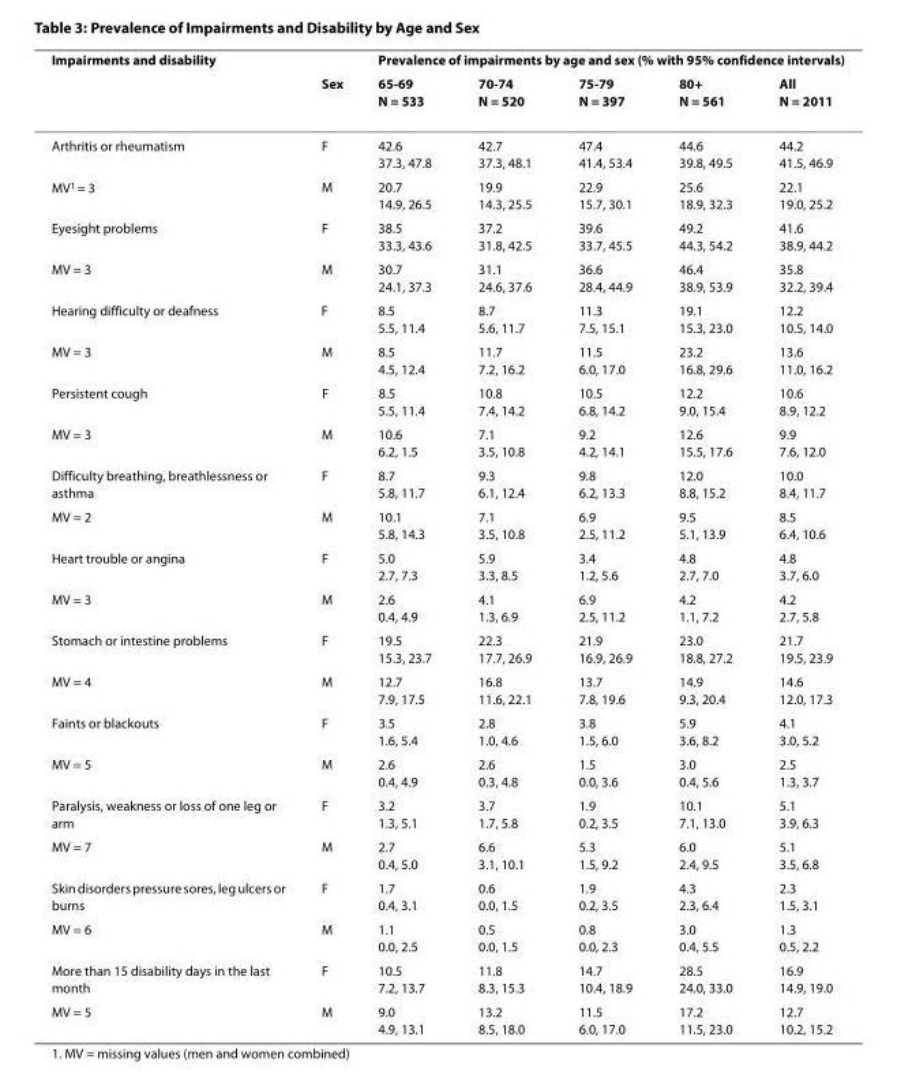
<table><thead><tr><td rowspan="2">Impairments and disability</td><td rowspan="2">Sex</td><td colspan="5">Prevalence of impairments by age and sex (% with 95% confidence intervals)</td></tr><tr><td>65-69 N = 533</td><td>70-74 N = 520</td><td>75-79 N = 397</td><td>80+ N = 561</td><td>All N = 2011</td></tr></thead><tbody><tr><td>Arthritis or rheumatism</td><td>F</td><td>42.6 37.3, 47.8</td><td>42.7 37.3, 48.1</td><td>47.4 41.4, 53.4</td><td>44.6 39.8, 49.5</td><td>44.2 41.5, 46.9</td></tr><tr><td>MV<sup>1</sup> = 3</td><td>M</td><td>20.7 14.9, 26.5</td><td>19.9 14.3, 25.5</td><td>22.9 15.7, 30.1</td><td>25.6 18.9, 32.3</td><td>22.1 19.0, 25.2</td></tr><tr><td>Eyesight problems</td><td>F</td><td>38.5 33.3, 43.6</td><td>37.2 31.8, 42.5</td><td>39.6 33.7, 45.5</td><td>49.2 44.3, 54.2</td><td>41.6 38.9, 44.2</td></tr><tr><td>MV = 3</td><td>M</td><td>30.7 24.1, 37.3</td><td>31.1 24.6, 37.6</td><td>36.6 28.4, 44.9</td><td>46.4 38.9, 53.9</td><td>35.8 32.2, 39.4</td></tr><tr><td>Hearing difficulty or deafness</td><td>F</td><td>8.5 5.5, 11.4</td><td>8.7 5.6, 11.7</td><td>11.3 7.5, 15.1</td><td>19.1 15.3, 23.0</td><td>12.2 10.5, 14.0</td></tr><tr><td>MV = 3</td><td>M</td><td>8.5 4.5, 12.4</td><td>11.7 7.2, 16.2</td><td>11.5 6.0, 17.0</td><td>23.2 16.8, 29.6</td><td>13.6 11.0, 16.2</td></tr><tr><td>Persistent cough</td><td>F</td><td>8.5 5.5, 11.4</td><td>10.8 7.4, 14.2</td><td>10.5 6.8, 14.2</td><td>12.2 9.0, 15.4</td><td>10.6 8.9, 12.2</td></tr><tr><td>MV = 3</td><td>M</td><td>10.6 6.2, 1.5</td><td>7.1 3.5, 10.8</td><td>9.2 4.2, 14.1</td><td>12.6 15.5, 17.6</td><td>9.9 7.6, 12.0</td></tr><tr><td>Difficulty breathing, breathlessness or asthma</td><td>F</td><td>8.7 5.8, 11.7</td><td>9.3 6.1, 12.4</td><td>9.8 6.2, 13.3</td><td>12.0 8.8, 15.2</td><td>10.0 8.4, 11.7</td></tr><tr><td>MV = 2</td><td>M</td><td>10.1 5.8, 14.3</td><td>7.1 3.5, 10.8</td><td>6.9 2.5, 11.2</td><td>9.5 5.1, 13.9</td><td>8.5 6.4, 10.6</td></tr><tr><td>Heart trouble or angina</td><td>F</td><td>5.0 2.7, 7.3</td><td>5.9 3.3, 8.5</td><td>3.4 1.2, 5.6</td><td>4.8 2.7, 7.0</td><td>4.8 3.7, 6.0</td></tr><tr><td>MV = 3</td><td>M</td><td>2.6 0.4, 4.9</td><td>4.1 1.3, 6.9</td><td>6.9 2.5, 11.2</td><td>4.2 1.1, 7.2</td><td>4.2 2.7, 5.8</td></tr><tr><td>Stomach or intestine problems</td><td>F</td><td>19.5 15.3, 23.7</td><td>22.3 17.7, 26.9</td><td>21.9 16.9, 26.9</td><td>23.0 18.8, 27.2</td><td>21.7 19.5, 23.9</td></tr><tr><td>MV = 4</td><td>M</td><td>12.7 7.9, 17.5</td><td>16.8 11.6, 22.1</td><td>13.7 7.8, 19.6</td><td>14.9 9.3, 20.4</td><td>14.6 12.0, 17.3</td></tr><tr><td>Faints or blackouts</td><td>F</td><td>3.5 1.6, 5.4</td><td>2.8 1.0, 4.6</td><td>3.8 1.5, 6.0</td><td>5.9 3.6, 8.2</td><td>4.1 3.0, 5.2</td></tr><tr><td>MV = 5</td><td>M</td><td>2.6 0.4, 4.9</td><td>2.6 0.3, 4.8</td><td>1.5 0.0, 3.6</td><td>3.0 0.4, 5.6</td><td>2.5 1.3, 3.7</td></tr><tr><td>Paralysis, weakness or loss of one leg or arm</td><td>F</td><td>3.2 1.3, 5.1</td><td>3.7 1.7, 5.8</td><td>1.9 0.2, 3.5</td><td>10.1 7.1, 13.0</td><td>5.1 3.9, 6.3</td></tr><tr><td>MV = 7</td><td>M</td><td>2.7 0.4, 5.0</td><td>6.6 3.1, 10.1</td><td>5.3 1.5, 9.2</td><td>6.0 2.4, 9.5</td><td>5.1 3.5, 6.8</td></tr><tr><td>Skin disorders pressure sores, leg ulcers or burns</td><td>F</td><td>1.7 0.4, 3.1</td><td>0.6 0.0, 1.5</td><td>1.9 0.2, 3.5</td><td>4.3 2.3, 6.4</td><td>2.3 1.5, 3.1</td></tr><tr><td>MV = 6</td><td>M</td><td>1.1 0.0, 2.5</td><td>0.5 0.0, 1.5</td><td>0.8 0.0, 2.3</td><td>3.0 0.4, 5.5</td><td>1.3 0.5, 2.2</td></tr><tr><td>More than 15 disability days in the last month</td><td>F</td><td>10.5 7.2, 13.7</td><td>11.8 8.3, 15.3</td><td>14.7 10.4, 18.9</td><td>28.5 24.0, 33.0</td><td>16.9 14.9, 19.0</td></tr><tr><td>MV = 5</td><td>M</td><td>9.0 4.9, 13.1</td><td>13.2 8.5, 18.0</td><td>11.5 6.0, 17.0</td><td>17.2 11.5, 23.0</td><td>12.7 10.2, 15.2</td></tr></tbody></table>